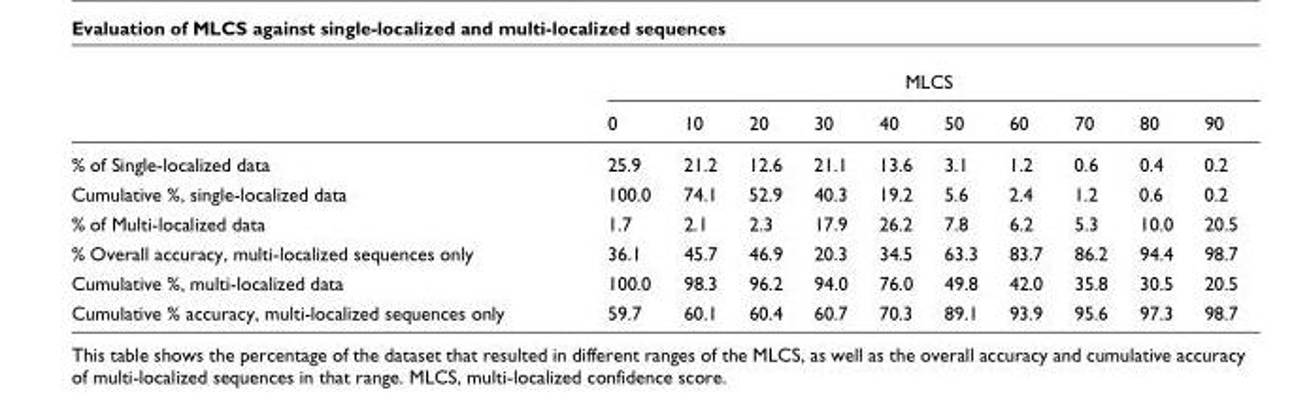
<table><thead><tr><td rowspan="2"></td><td colspan="10">MLCS</td></tr><tr><td>0</td><td>10</td><td>20</td><td>30</td><td>40</td><td>50</td><td>60</td><td>70</td><td>80</td><td>90</td></tr></thead><tbody><tr><td>% of Single-localized data</td><td>25.9</td><td>21.2</td><td>12.6</td><td>21.1</td><td>13.6</td><td>3.1</td><td>1.2</td><td>0.6</td><td>0.4</td><td>0.2</td></tr><tr><td>Cumulative %, single-localized data</td><td>100.0</td><td>74.1</td><td>52.9</td><td>40.3</td><td>19.2</td><td>5.6</td><td>2.4</td><td>1.2</td><td>0.6</td><td>0.2</td></tr><tr><td>% of Multi-localized data</td><td>1.7</td><td>2.1</td><td>2.3</td><td>17.9</td><td>26.2</td><td>7.8</td><td>6.2</td><td>5.3</td><td>10.0</td><td>20.5</td></tr><tr><td>% Overall accuracy, multi-localized sequences only</td><td>36.1</td><td>45.7</td><td>46.9</td><td>20.3</td><td>34.5</td><td>63.3</td><td>83.7</td><td>86.2</td><td>94.4</td><td>98.7</td></tr><tr><td>Cumulative %, multi-localized data</td><td>100.0</td><td>98.3</td><td>96.2</td><td>94.0</td><td>76.0</td><td>49.8</td><td>42.0</td><td>35.8</td><td>30.5</td><td>20.5</td></tr><tr><td>Cumulative % accuracy, multi-localized sequences only</td><td>59.7</td><td>60.1</td><td>60.4</td><td>60.7</td><td>70.3</td><td>89.1</td><td>93.9</td><td>95.6</td><td>97.3</td><td>98.7</td></tr></tbody></table>